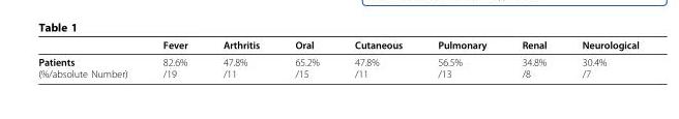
<table><thead><tr><td></td><td>Fever</td><td>Arthritis</td><td>Oral</td><td>Cutaneous</td><td>Pulmonary</td><td>Renal</td><td>Neurological</td></tr></thead><tbody><tr><td>Patients (%/absolute Number)</td><td>82.6% /19</td><td>47.8% /11</td><td>65.2% /15</td><td>47.8% /11</td><td>56.5% /13</td><td>34.8% /8</td><td>30.4% /7</td></tr></tbody></table>